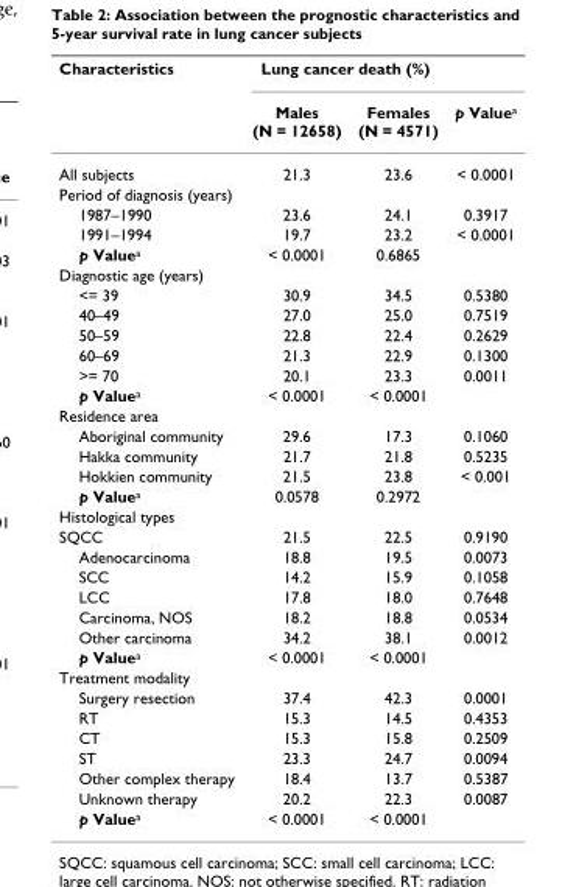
<table><thead><tr><td rowspan="2">Characteristics</td><td colspan="2">Lung cancer death (%)</td><td rowspan="2">p Value<sup>a</sup></td></tr><tr><td>Males (N = 12658)</td><td>Females (N = 4571)</td></tr></thead><tbody><tr><td>All subjects</td><td>21.3</td><td>23.6</td><td>&lt; 0.0001</td></tr><tr><td colspan="4">Period of diagnosis (years)</td></tr><tr><td>1987–1990</td><td>23.6</td><td>24.1</td><td>0.3917</td></tr><tr><td>1991–1994</td><td>19.7</td><td>23.2</td><td>&lt; 0.0001</td></tr><tr><td>p Value<sup>a</sup></td><td>&lt; 0.0001</td><td>0.6865</td><td></td></tr><tr><td colspan="4">Diagnostic age (years)</td></tr><tr><td>&lt;= 39</td><td>30.9</td><td>34.5</td><td>0.5380</td></tr><tr><td>40–49</td><td>27.0</td><td>25.0</td><td>0.7519</td></tr><tr><td>50–59</td><td>22.8</td><td>22.4</td><td>0.2629</td></tr><tr><td>60–69</td><td>21.3</td><td>22.9</td><td>0.1300</td></tr><tr><td>&gt;= 70</td><td>20.1</td><td>23.3</td><td>0.0011</td></tr><tr><td>p Value<sup>a</sup></td><td>&lt; 0.0001</td><td>&lt; 0.0001</td><td></td></tr><tr><td colspan="4">Residence area</td></tr><tr><td>Aboriginal community</td><td>29.6</td><td>17.3</td><td>0.1060</td></tr><tr><td>Hakka community</td><td>21.7</td><td>21.8</td><td>0.5235</td></tr><tr><td>Hokkien community</td><td>21.5</td><td>23.8</td><td>&lt; 0.001</td></tr><tr><td>p Value<sup>a</sup></td><td>0.0578</td><td>0.2972</td><td></td></tr><tr><td colspan="4">Histological types</td></tr><tr><td>SQCC</td><td>21.5</td><td>22.5</td><td>0.9190</td></tr><tr><td>Adenocarcinoma</td><td>18.8</td><td>19.5</td><td>0.0073</td></tr><tr><td>SCC</td><td>14.2</td><td>15.9</td><td>0.1058</td></tr><tr><td>LCC</td><td>17.8</td><td>18.0</td><td>0.7648</td></tr><tr><td>Carcinoma, NOS</td><td>18.2</td><td>18.8</td><td>0.0534</td></tr><tr><td>Other carcinoma</td><td>34.2</td><td>38.1</td><td>0.0012</td></tr><tr><td>p Value<sup>a</sup></td><td>&lt; 0.0001</td><td>&lt; 0.0001</td><td></td></tr><tr><td colspan="4">Treatment modality</td></tr><tr><td>Surgery resection</td><td>37.4</td><td>42.3</td><td>0.0001</td></tr><tr><td>RT</td><td>15.3</td><td>14.5</td><td>0.4353</td></tr><tr><td>CT</td><td>15.3</td><td>15.8</td><td>0.2509</td></tr><tr><td>ST</td><td>23.3</td><td>24.7</td><td>0.0094</td></tr><tr><td>Other complex therapy</td><td>18.4</td><td>13.7</td><td>0.5387</td></tr><tr><td>Unknown therapy</td><td>20.2</td><td>22.3</td><td>0.0087</td></tr><tr><td>p Value<sup>a</sup></td><td>&lt; 0.0001</td><td>&lt; 0.0001</td><td></td></tr></tbody></table>